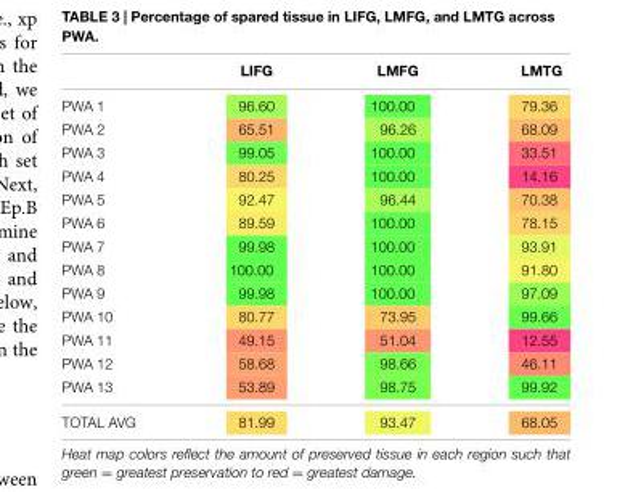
<table><thead><tr><td></td><td>LIFG</td><td>LMFG</td><td>LMTG</td></tr></thead><tbody><tr><td>PWA 1</td><td>96.60</td><td>100.00</td><td>79.36</td></tr><tr><td>PWA 2</td><td>65.51</td><td>96.26</td><td>68.09</td></tr><tr><td>PWA 3</td><td>99.05</td><td>100.00</td><td>33.51</td></tr><tr><td>PWA 4</td><td>80.25</td><td>100.00</td><td>14.16</td></tr><tr><td>PWA 5</td><td>92.47</td><td>96.44</td><td>70.38</td></tr><tr><td>PWA 6</td><td>89.59</td><td>100.00</td><td>78.15</td></tr><tr><td>PWA 7</td><td>99.98</td><td>100.00</td><td>93.91</td></tr><tr><td>PWA 8</td><td>100.00</td><td>100.00</td><td>91.80</td></tr><tr><td>PWA 9</td><td>99.98</td><td>100.00</td><td>97.09</td></tr><tr><td>PWA 10</td><td>80.77</td><td>73.95</td><td>99.66</td></tr><tr><td>PWA 11</td><td>49.15</td><td>51.04</td><td>12.55</td></tr><tr><td>PWA 12</td><td>58.68</td><td>98.66</td><td>46.11</td></tr><tr><td>PWA 13</td><td>53.89</td><td>98.75</td><td>99.92</td></tr><tr><td>TOTAL AVG</td><td>81.99</td><td>93.47</td><td>68.05</td></tr></tbody></table>